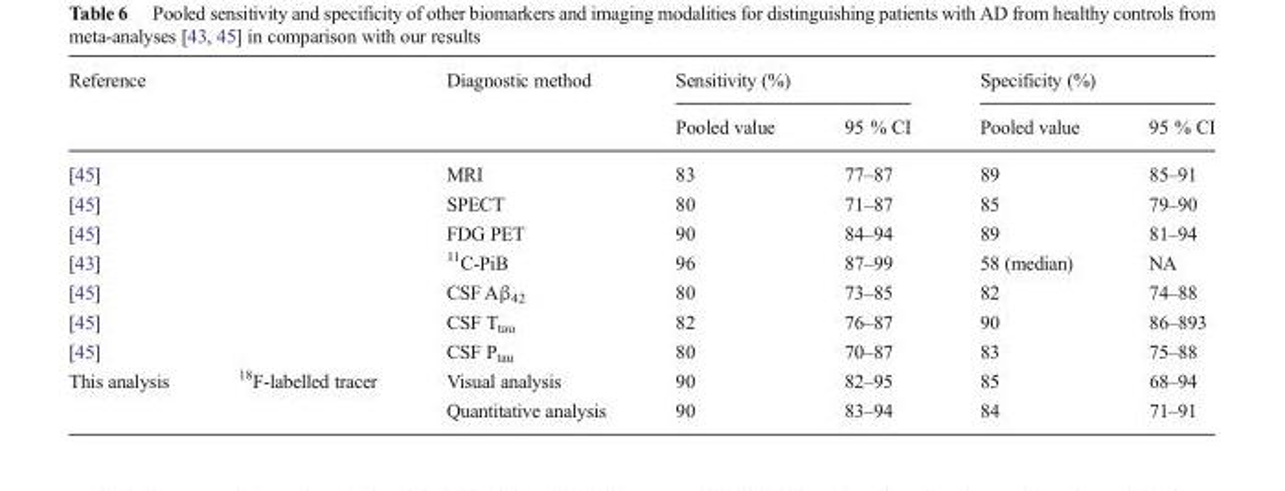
<table><thead><tr><td rowspan="2" colspan="2">Reference</td><td rowspan="2">Diagnostic method</td><td colspan="2">Sensitivity (%)</td><td colspan="2">Specificity (%)</td></tr><tr><td>Pooled value</td><td>95 % CI</td><td>Pooled value</td><td>95 % CI</td></tr></thead><tbody><tr><td colspan="2">[45]</td><td>MRI</td><td>83</td><td>77–87</td><td>89</td><td>85–91</td></tr><tr><td colspan="2">[45]</td><td>SPECT</td><td>80</td><td>71–87</td><td>85</td><td>79–90</td></tr><tr><td colspan="2">[45]</td><td>FDG PET</td><td>90</td><td>84–94</td><td>89</td><td>81–94</td></tr><tr><td colspan="2">[43]</td><td><sup>11</sup>C-PiB</td><td>96</td><td>87–99</td><td>58 (median)</td><td>NA</td></tr><tr><td colspan="2">[45]</td><td>CSF Aβ<sub>42</sub></td><td>80</td><td>73–85</td><td>82</td><td>74–88</td></tr><tr><td colspan="2">[45]</td><td>CSF T<sub>tau</sub></td><td>82</td><td>76–87</td><td>90</td><td>86–893</td></tr><tr><td colspan="2">[45]</td><td>CSF P<sub>tau</sub></td><td>80</td><td>70–87</td><td>83</td><td>75–88</td></tr><tr><td rowspan="2">This analysis</td><td rowspan="2"><sup>18</sup>F-labelled tracer</td><td>Visual analysis</td><td>90</td><td>82–95</td><td>85</td><td>68–94</td></tr><tr><td>Quantitative analysis</td><td>90</td><td>83–94</td><td>84</td><td>71–91</td></tr></tbody></table>